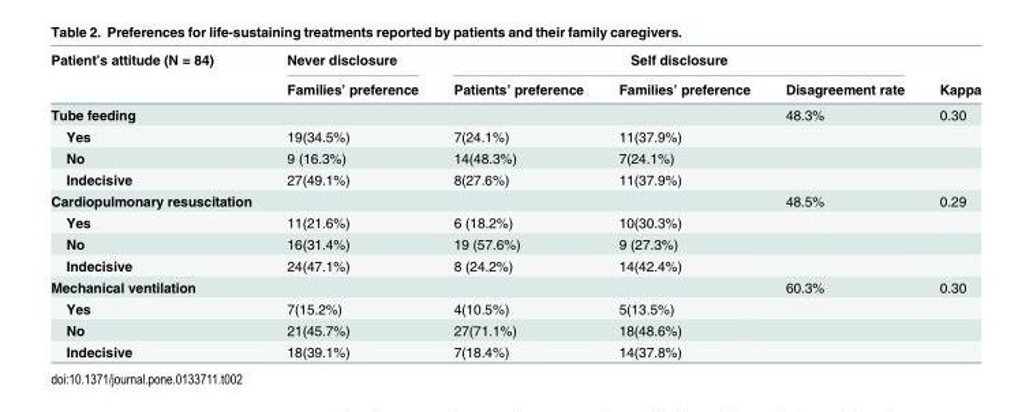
<table><thead><tr><td rowspan="2">Patient’s attitude (N = 84)</td><td rowspan="2">Never disclosure Families’ preference</td><td colspan="3">Self disclosure</td><td rowspan="2">Kappa</td></tr><tr><td>Patients’ preference</td><td>Families’ preference</td><td>Disagreement rate</td></tr></thead><tbody><tr><td>Tube feeding</td><td></td><td></td><td></td><td>48.3%</td><td>0.30</td></tr><tr><td>Yes</td><td>19(34.5%)</td><td>7(24.1%)</td><td>11(37.9%)</td><td></td><td></td></tr><tr><td>No</td><td>9 (16.3%)</td><td>14(48.3%)</td><td>7(24.1%)</td><td></td><td></td></tr><tr><td>Indecisive</td><td>27(49.1%)</td><td>8(27.6%)</td><td>11(37.9%)</td><td></td><td></td></tr><tr><td>Cardiopulmonary resuscitation</td><td></td><td></td><td></td><td>48.5%</td><td>0.29</td></tr><tr><td>Yes</td><td>11(21.6%)</td><td>6 (18.2%)</td><td>10(30.3%)</td><td></td><td></td></tr><tr><td>No</td><td>16(31.4%)</td><td>19 (57.6%)</td><td>9 (27.3%)</td><td></td><td></td></tr><tr><td>Indecisive</td><td>24(47.1%)</td><td>8 (24.2%)</td><td>14(42.4%)</td><td></td><td></td></tr><tr><td>Mechanical ventilation</td><td></td><td></td><td></td><td>60.3%</td><td>0.30</td></tr><tr><td>Yes</td><td>7(15.2%)</td><td>4(10.5%)</td><td>5(13.5%)</td><td></td><td></td></tr><tr><td>No</td><td>21(45.7%)</td><td>27(71.1%)</td><td>18(48.6%)</td><td></td><td></td></tr><tr><td>Indecisive</td><td>18(39.1%)</td><td>7(18.4%)</td><td>14(37.8%)</td><td></td><td></td></tr></tbody></table>